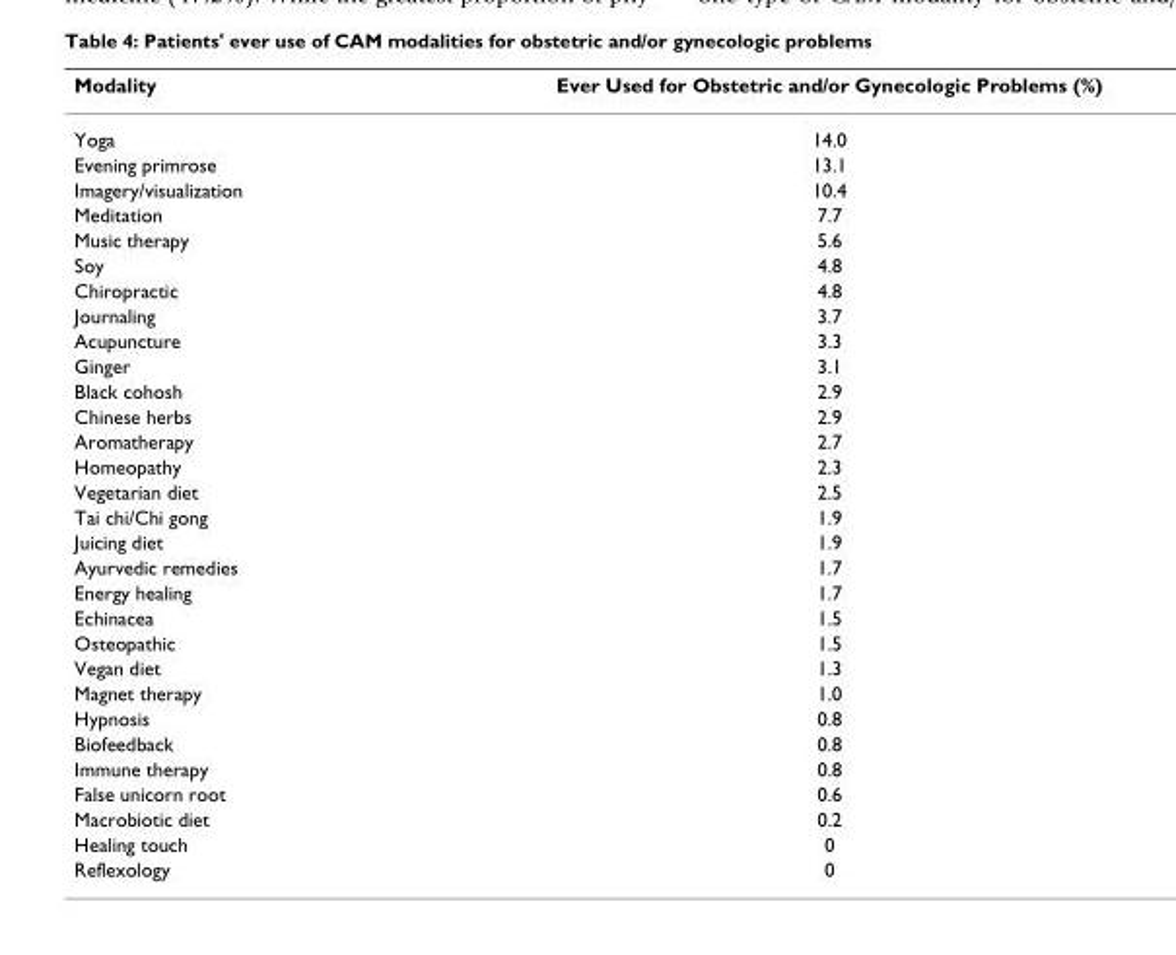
<table><thead><tr><td>Modality</td><td>Ever Used for Obstetric and/or Gynecologic Problems (%)</td></tr></thead><tbody><tr><td>Yoga</td><td>14.0</td></tr><tr><td>Evening primrose</td><td>13.1</td></tr><tr><td>Imagery/visualization</td><td>10.4</td></tr><tr><td>Meditation</td><td>7.7</td></tr><tr><td>Music therapy</td><td>5.6</td></tr><tr><td>Soy</td><td>4.8</td></tr><tr><td>Chiropractic</td><td>4.8</td></tr><tr><td>Journaling</td><td>3.7</td></tr><tr><td>Acupuncture</td><td>3.3</td></tr><tr><td>Ginger</td><td>3.1</td></tr><tr><td>Black cohosh</td><td>2.9</td></tr><tr><td>Chinese herbs</td><td>2.9</td></tr><tr><td>Aromatherapy</td><td>2.7</td></tr><tr><td>Homeopathy</td><td>2.3</td></tr><tr><td>Vegetarian diet</td><td>2.5</td></tr><tr><td>Tai chi/Chi gong</td><td>1.9</td></tr><tr><td>Juicing diet</td><td>1.9</td></tr><tr><td>Ayurvedic remedies</td><td>1.7</td></tr><tr><td>Energy healing</td><td>1.7</td></tr><tr><td>Echinacea</td><td>1.5</td></tr><tr><td>Osteopathic</td><td>1.5</td></tr><tr><td>Vegan diet</td><td>1.3</td></tr><tr><td>Magnet therapy</td><td>1.0</td></tr><tr><td>Hypnosis</td><td>0.8</td></tr><tr><td>Biofeedback</td><td>0.8</td></tr><tr><td>Immune therapy</td><td>0.8</td></tr><tr><td>False unicorn root</td><td>0.6</td></tr><tr><td>Macrobiotic diet</td><td>0.2</td></tr><tr><td>Healing touch</td><td>0</td></tr><tr><td>Reflexology</td><td>0</td></tr></tbody></table>